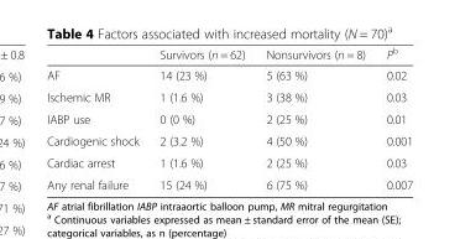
<table><thead><tr><td></td><td>Survivors (n = 62)</td><td>Nonsurvivors (n = 8)</td><td>P<sup>b</sup></td></tr></thead><tbody><tr><td>AF</td><td>14 (23 %)</td><td>5 (63 %)</td><td>0.02</td></tr><tr><td>Ischemic MR</td><td>1 (1.6 %)</td><td>3 (38 %)</td><td>0.03</td></tr><tr><td>IABP use</td><td>0 (0 %)</td><td>2 (25 %)</td><td>0.01</td></tr><tr><td>Cardiogenic shock</td><td>2 (3.2 %)</td><td>4 (50 %)</td><td>0.001</td></tr><tr><td>Cardiac arrest</td><td>1 (1.6 %)</td><td>2 (25 %)</td><td>0.03</td></tr><tr><td>Any renal failure</td><td>15 (24 %)</td><td>6 (75 %)</td><td>0.007</td></tr></tbody></table>